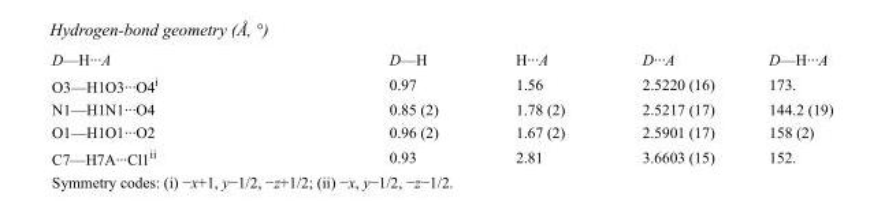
<table><tbody><tr><td>D—H···A</td><td>D—H</td><td>H···A</td><td>D···A</td><td>D—H···A</td></tr><tr><td>O3—H1O3···O4<sup>i</sup></td><td>0.97</td><td>1.56</td><td>2.5220 (16)</td><td>173.</td></tr><tr><td>N1—H1N1···O4</td><td>0.85 (2)</td><td>1.78 (2)</td><td>2.5217 (17)</td><td>144.2 (19)</td></tr><tr><td>O1—H1O1···O2</td><td>0.96 (2)</td><td>1.67 (2)</td><td>2.5901 (17)</td><td>158 (2)</td></tr><tr><td>C7—H7A···Cl1<sup>ii</sup></td><td>0.93</td><td>2.81</td><td>3.6603 (15)</td><td>152.</td></tr></tbody></table>